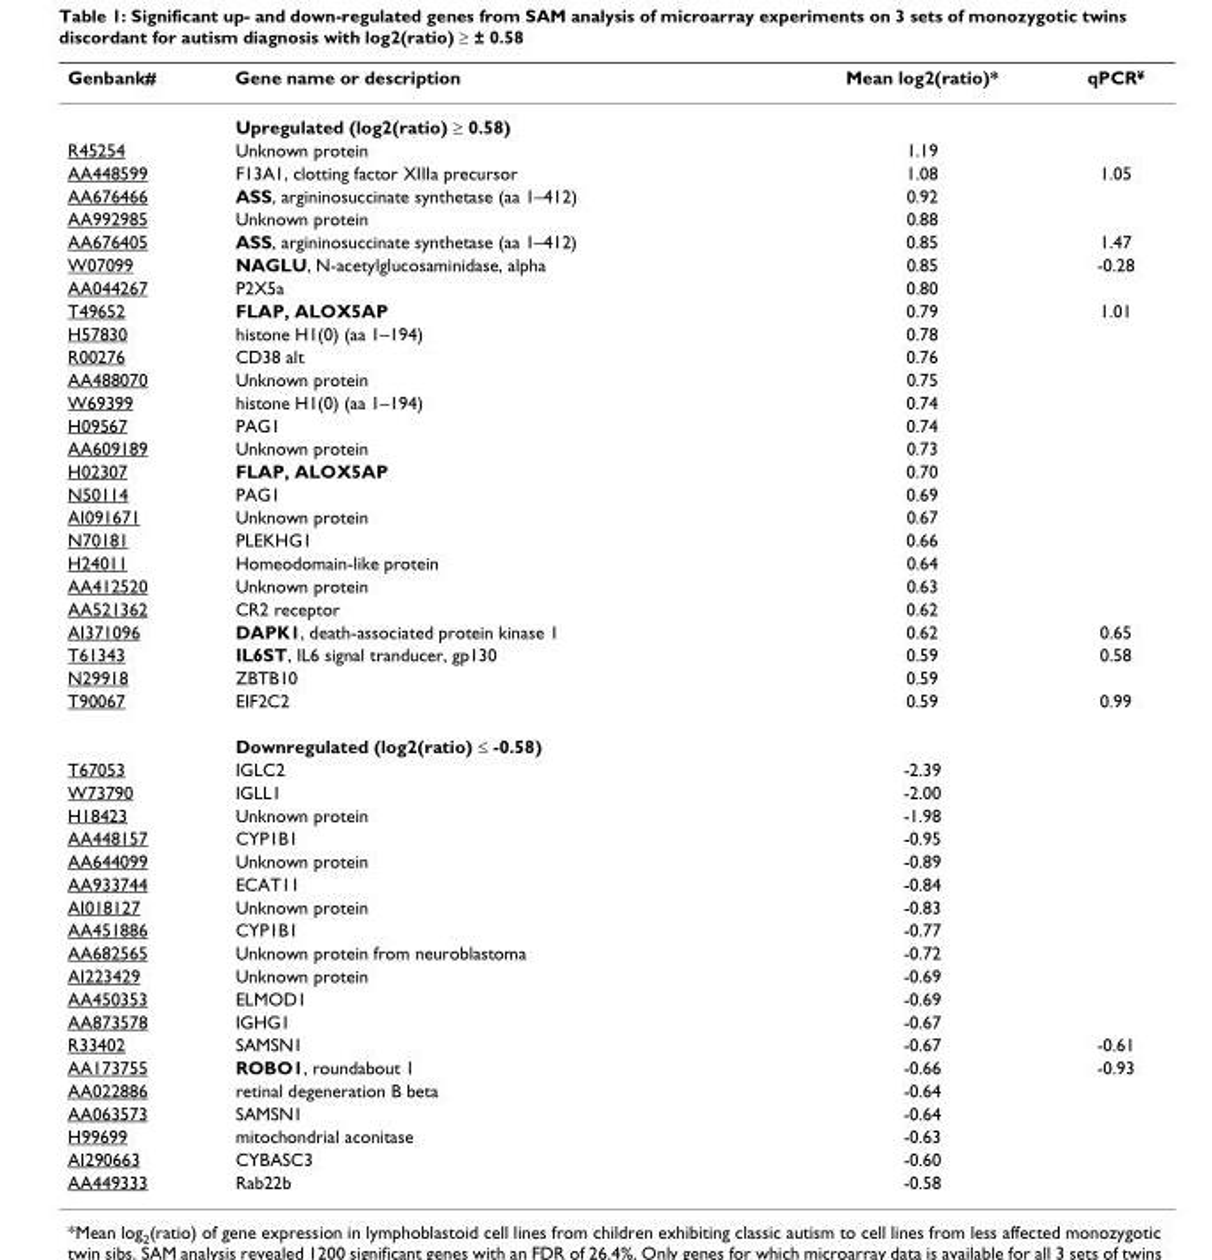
<table><thead><tr><td>Genbank#</td><td>Gene name or description</td><td>Mean log2(ratio)*</td><td>qPCR<sup>¥</sup></td></tr></thead><tbody><tr><td></td><td>Upregulated (log2(ratio) ≥ 0.58)</td><td></td><td></td></tr><tr><td>R45254</td><td>Unknown protein</td><td>1.19</td><td></td></tr><tr><td>AA448599</td><td>F13A1, clotting factor XIIIa precursor</td><td>1.08</td><td>1.05</td></tr><tr><td>AA676466</td><td>ASS, argininosuccinate synthetase (aa 1–412)</td><td>0.92</td><td></td></tr><tr><td>AA992985</td><td>Unknown protein</td><td>0.88</td><td></td></tr><tr><td>AA676405</td><td>ASS, argininosuccinate synthetase (aa 1–412)</td><td>0.85</td><td>1.47</td></tr><tr><td>W07099</td><td>NAGLU, N-acetylglucosaminidase, alpha</td><td>0.85</td><td>-0.28</td></tr><tr><td>AA044267</td><td>P2X5a</td><td>0.80</td><td></td></tr><tr><td>T49652</td><td>FLAP, ALOX5AP</td><td>0.79</td><td>1.01</td></tr><tr><td>H57830</td><td>histone H1(0) (aa 1–194)</td><td>0.78</td><td></td></tr><tr><td>R00276</td><td>CD38 alt</td><td>0.76</td><td></td></tr><tr><td>AA488070</td><td>Unknown protein</td><td>0.75</td><td></td></tr><tr><td>W69399</td><td>histone H1(0) (aa 1–194)</td><td>0.74</td><td></td></tr><tr><td>H09567</td><td>PAG1</td><td>0.74</td><td></td></tr><tr><td>AA609189</td><td>Unknown protein</td><td>0.73</td><td></td></tr><tr><td>H02307</td><td>FLAP, ALOX5AP</td><td>0.70</td><td></td></tr><tr><td>N50114</td><td>PAG1</td><td>0.69</td><td></td></tr><tr><td>AI091671</td><td>Unknown protein</td><td>0.67</td><td></td></tr><tr><td>N70181</td><td>PLEKHG1</td><td>0.66</td><td></td></tr><tr><td>H24011</td><td>Homeodomain-like protein</td><td>0.64</td><td></td></tr><tr><td>AA412520</td><td>Unknown protein</td><td>0.63</td><td></td></tr><tr><td>AA521362</td><td>CR2 receptor</td><td>0.62</td><td></td></tr><tr><td>AI371096</td><td>DAPK1, death-associated protein kinase 1</td><td>0.62</td><td>0.65</td></tr><tr><td>T61343</td><td>IL6ST, IL6 signal tranducer, gp130</td><td>0.59</td><td>0.58</td></tr><tr><td>N29918</td><td>ZBTB10</td><td>0.59</td><td></td></tr><tr><td rowspan="2">T90067</td><td>EIF2C2</td><td>0.59</td><td>0.99</td></tr><tr><td>Downregulated (log2(ratio) ≤ -0.58)</td><td></td><td></td></tr><tr><td>T67053</td><td>IGLC2</td><td>-2.39</td><td></td></tr><tr><td>W73790</td><td>IGLL1</td><td>-2.00</td><td></td></tr><tr><td>H18423</td><td>Unknown protein</td><td>-1.98</td><td></td></tr><tr><td>AA448157</td><td>CYP1B1</td><td>-0.95</td><td></td></tr><tr><td>AA644099</td><td>Unknown protein</td><td>-0.89</td><td></td></tr><tr><td>AA933744</td><td>ECAT11</td><td>-0.84</td><td></td></tr><tr><td>AI018127</td><td>Unknown protein</td><td>-0.83</td><td></td></tr><tr><td>AA451886</td><td>CYP1B1</td><td>-0.77</td><td></td></tr><tr><td>AA682565</td><td>Unknown protein from neuroblastoma</td><td>-0.72</td><td></td></tr><tr><td>AI223429</td><td>Unknown protein</td><td>-0.69</td><td></td></tr><tr><td>AA450353</td><td>ELMOD1</td><td>-0.69</td><td></td></tr><tr><td>AA873578</td><td>IGHG1</td><td>-0.67</td><td></td></tr><tr><td>R33402</td><td>SAMSN1</td><td>-0.67</td><td>-0.61</td></tr><tr><td>AA173755</td><td>ROBO1, roundabout 1</td><td>-0.66</td><td>-0.93</td></tr><tr><td>AA022886</td><td>retinal degeneration B beta</td><td>-0.64</td><td></td></tr><tr><td>AA063573</td><td>SAMSN1</td><td>-0.64</td><td></td></tr><tr><td>H99699</td><td>mitochondrial aconitase</td><td>-0.63</td><td></td></tr><tr><td>AI290663</td><td>CYBASC3</td><td>-0.60</td><td></td></tr><tr><td>AA449333</td><td>Rab22b</td><td>-0.58</td><td></td></tr></tbody></table>